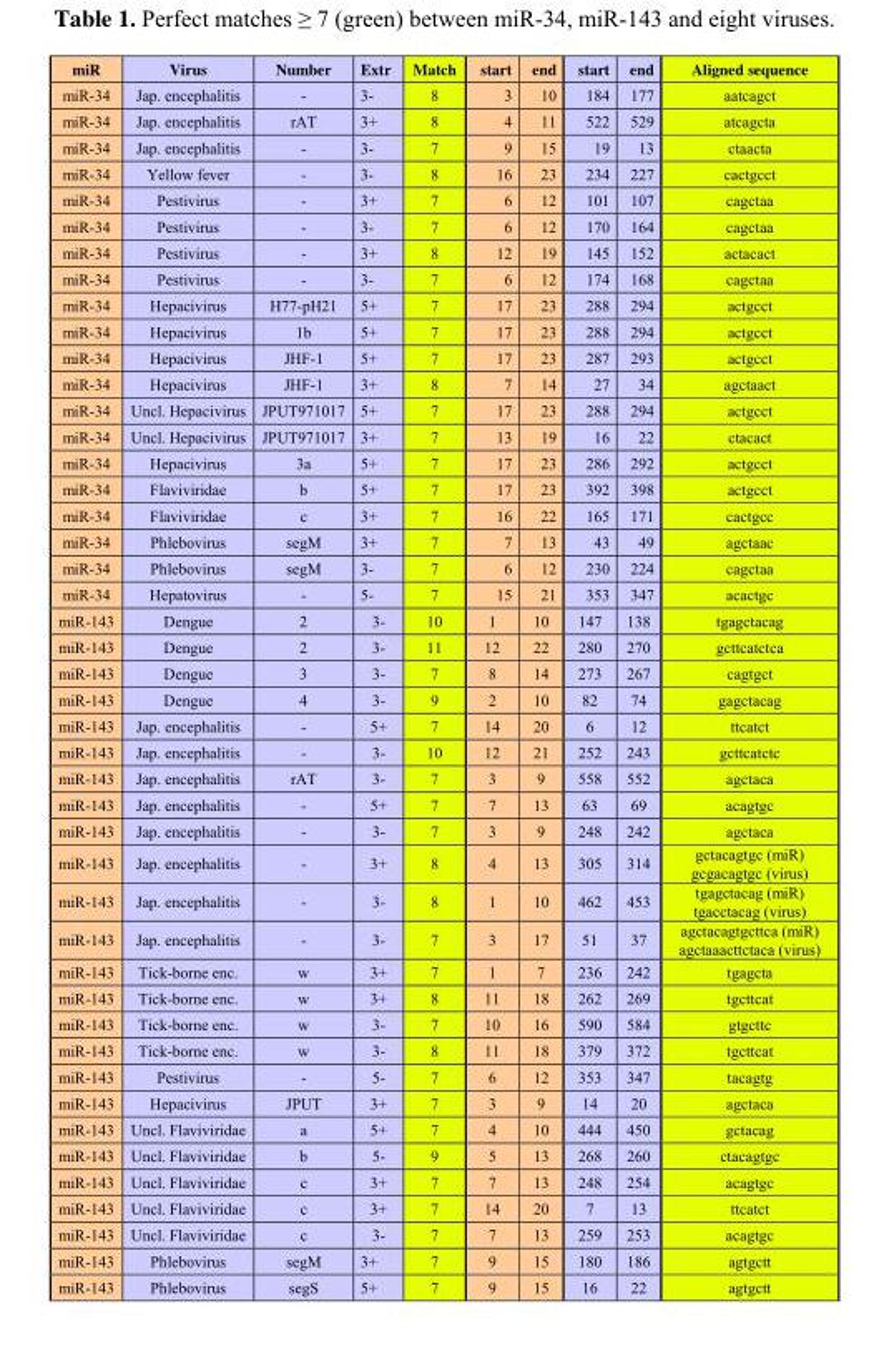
<table><thead><tr><td>miR</td><td>Virus</td><td>Number</td><td>Extr</td><td>Match</td><td>start</td><td>end</td><td>start</td><td>end</td><td>Aligned sequence</td></tr></thead><tbody><tr><td>miR-34</td><td>Jap. encephalitis</td><td>-</td><td>3-</td><td>8</td><td>3</td><td>10</td><td>184</td><td>177</td><td>aatcagct</td></tr><tr><td>miR-34</td><td>Jap. encephalitis</td><td>rAT</td><td>3+</td><td>8</td><td>4</td><td>11</td><td>522</td><td>529</td><td>atcagcta</td></tr><tr><td>miR-34</td><td>Jap. encephalitis</td><td>-</td><td>3-</td><td>7</td><td>9</td><td>15</td><td>19</td><td>13</td><td>ctaacta</td></tr><tr><td>miR-34</td><td>Yellow fever</td><td>-</td><td>3-</td><td>8</td><td>16</td><td>23</td><td>234</td><td>227</td><td>cactgcct</td></tr><tr><td>miR-34</td><td>Pestivirus</td><td>-</td><td>3+</td><td>7</td><td>6</td><td>12</td><td>101</td><td>107</td><td>cagctaa</td></tr><tr><td>miR-34</td><td>Pestivirus</td><td>-</td><td>3-</td><td>7</td><td>6</td><td>12</td><td>170</td><td>164</td><td>cagctaa</td></tr><tr><td>miR-34</td><td>Pestivirus</td><td>-</td><td>3+</td><td>8</td><td>12</td><td>19</td><td>145</td><td>152</td><td>actacact</td></tr><tr><td>miR-34</td><td>Pestivirus</td><td>-</td><td>3-</td><td>7</td><td>6</td><td>12</td><td>174</td><td>168</td><td>cagctaa</td></tr><tr><td>miR-34</td><td>Hepacivirus</td><td>H77-pH21</td><td>5+</td><td>7</td><td>17</td><td>23</td><td>288</td><td>294</td><td>actgcct</td></tr><tr><td>miR-34</td><td>Hepacivirus</td><td>1b</td><td>5+</td><td>7</td><td>17</td><td>23</td><td>288</td><td>294</td><td>actgcct</td></tr><tr><td>miR-34</td><td>Hepacivirus</td><td>JHF-1</td><td>5+</td><td>7</td><td>17</td><td>23</td><td>287</td><td>293</td><td>actgcct</td></tr><tr><td>miR-34</td><td>Hepacivirus</td><td>JHF-1</td><td>3+</td><td>8</td><td>7</td><td>14</td><td>27</td><td>34</td><td>agctaact</td></tr><tr><td>miR-34</td><td>Uncl. Hepacivirus</td><td>JPUT971017</td><td>5+</td><td>7</td><td>17</td><td>23</td><td>288</td><td>294</td><td>actgcct</td></tr><tr><td>miR-34</td><td>Uncl. Hepacivirus</td><td>JPUT971017</td><td>3+</td><td>7</td><td>13</td><td>19</td><td>16</td><td>22</td><td>ctacact</td></tr><tr><td>miR-34</td><td>Hepacivirus</td><td>3a</td><td>5+</td><td>7</td><td>17</td><td>23</td><td>286</td><td>292</td><td>actgcct</td></tr><tr><td>miR-34</td><td>Flaviviridae</td><td>b</td><td>5+</td><td>7</td><td>17</td><td>23</td><td>392</td><td>398</td><td>actgcct</td></tr><tr><td>miR-34</td><td>Flaviviridae</td><td>c</td><td>3+</td><td>7</td><td>16</td><td>22</td><td>165</td><td>171</td><td>cactgcc</td></tr><tr><td>miR-34</td><td>Phlebovirus</td><td>segM</td><td>3+</td><td>7</td><td>7</td><td>13</td><td>43</td><td>49</td><td>agctaac</td></tr><tr><td>miR-34</td><td>Phlebovirus</td><td>segM</td><td>3-</td><td>7</td><td>6</td><td>12</td><td>230</td><td>224</td><td>cagctaa</td></tr><tr><td>miR-34</td><td>Hepatovirus</td><td>-</td><td>5-</td><td>7</td><td>15</td><td>21</td><td>353</td><td>347</td><td>acactgc</td></tr><tr><td>miR-143</td><td>Dengue</td><td>2</td><td>3-</td><td>10</td><td>1</td><td>10</td><td>147</td><td>138</td><td>tgagctacag</td></tr><tr><td>miR-143</td><td>Dengue</td><td>2</td><td>3-</td><td>11</td><td>12</td><td>22</td><td>280</td><td>270</td><td>gcttcatctca</td></tr><tr><td>miR-143</td><td>Dengue</td><td>3</td><td>3-</td><td>7</td><td>8</td><td>14</td><td>273</td><td>267</td><td>cagtgct</td></tr><tr><td>miR-143</td><td>Dengue</td><td>4</td><td>3-</td><td>9</td><td>2</td><td>10</td><td>82</td><td>74</td><td>gagctacag</td></tr><tr><td>miR-143</td><td>Jap. encephalitis</td><td>-</td><td>5+</td><td>7</td><td>14</td><td>20</td><td>6</td><td>12</td><td>ttcatct</td></tr><tr><td>miR-143</td><td>Jap. encephalitis</td><td>-</td><td>3-</td><td>10</td><td>12</td><td>21</td><td>252</td><td>243</td><td>gcttcatctc</td></tr><tr><td>miR-143</td><td>Jap. encephalitis</td><td>rAT</td><td>3-</td><td>7</td><td>3</td><td>9</td><td>558</td><td>552</td><td>agctaca</td></tr><tr><td>miR-143</td><td>Jap. encephalitis</td><td>-</td><td>5+</td><td>7</td><td>7</td><td>13</td><td>63</td><td>69</td><td>acagtgc</td></tr><tr><td>miR-143</td><td>Jap. encephalitis</td><td>-</td><td>3-</td><td>7</td><td>3</td><td>9</td><td>248</td><td>242</td><td>agctaca</td></tr><tr><td>miR-143</td><td>Jap. encephalitis</td><td>-</td><td>3+</td><td>8</td><td>4</td><td>13</td><td>305</td><td>314</td><td>gctacagtgc (miR) gcgacagtgc (virus)</td></tr><tr><td>miR-143</td><td>Jap. encephalitis</td><td>-</td><td>3-</td><td>8</td><td>1</td><td>10</td><td>462</td><td>453</td><td>tgagctacag (miR) tgacctacag (virus)</td></tr><tr><td>miR-143</td><td>Jap. encephalitis</td><td>-</td><td>3-</td><td>7</td><td>3</td><td>17</td><td>51</td><td>37</td><td>agctacagtgcttca (miR) agctaaacttctaca (virus)</td></tr><tr><td>miR-143</td><td>Tick-borne enc.</td><td>w</td><td>3+</td><td>7</td><td>1</td><td>7</td><td>236</td><td>242</td><td>tgagcta</td></tr><tr><td>miR-143</td><td>Tick-borne enc.</td><td>w</td><td>3+</td><td>8</td><td>11</td><td>18</td><td>262</td><td>269</td><td>tgcttcat</td></tr><tr><td>miR-143</td><td>Tick-borne enc.</td><td>w</td><td>3-</td><td>7</td><td>10</td><td>16</td><td>590</td><td>584</td><td>gtgcttc</td></tr><tr><td>miR-143</td><td>Tick-borne enc.</td><td>w</td><td>3-</td><td>8</td><td>11</td><td>18</td><td>379</td><td>372</td><td>tgcttcat</td></tr><tr><td>miR-143</td><td>Pestivirus</td><td>-</td><td>5-</td><td>7</td><td>6</td><td>12</td><td>353</td><td>347</td><td>tacagtg</td></tr><tr><td>miR-143</td><td>Hepacivirus</td><td>JPUT</td><td>3+</td><td>7</td><td>3</td><td>9</td><td>14</td><td>20</td><td>agctaca</td></tr><tr><td>miR-143</td><td>Uncl. Flaviviridae</td><td>a</td><td>5+</td><td>7</td><td>4</td><td>10</td><td>444</td><td>450</td><td>gctacag</td></tr><tr><td>miR-143</td><td>Uncl. Flaviviridae</td><td>b</td><td>5-</td><td>9</td><td>5</td><td>13</td><td>268</td><td>260</td><td>ctacagtgc</td></tr><tr><td>miR-143</td><td>Uncl. Flaviviridae</td><td>c</td><td>3+</td><td>7</td><td>7</td><td>13</td><td>248</td><td>254</td><td>acagtgc</td></tr><tr><td>miR-143</td><td>Uncl. Flaviviridae</td><td>c</td><td>3+</td><td>7</td><td>14</td><td>20</td><td>7</td><td>13</td><td>ttcatct</td></tr><tr><td>miR-143</td><td>Uncl. Flaviviridae</td><td>c</td><td>3-</td><td>7</td><td>7</td><td>13</td><td>259</td><td>253</td><td>acagtgc</td></tr><tr><td>miR-143</td><td>Phlebovirus</td><td>segM</td><td>3+</td><td>7</td><td>9</td><td>15</td><td>180</td><td>186</td><td>agtgctt</td></tr><tr><td>miR-143</td><td>Phlebovirus</td><td>segS</td><td>5+</td><td>7</td><td>9</td><td>15</td><td>16</td><td>22</td><td>agtgctt</td></tr></tbody></table>